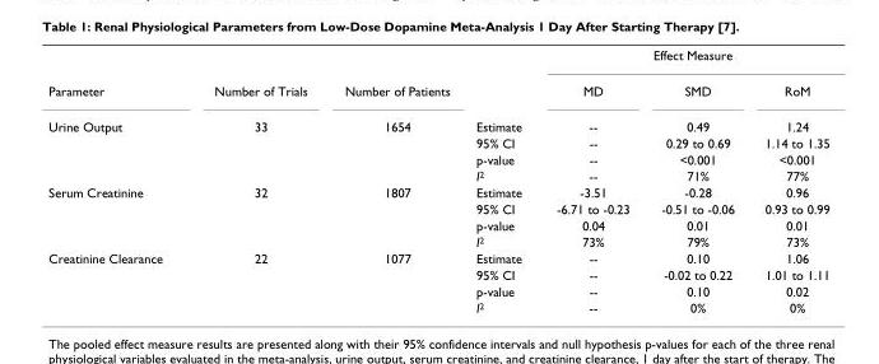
<table><thead><tr><td rowspan="2">Parameter</td><td rowspan="2">Number of Trials</td><td rowspan="2">Number of Patients</td><td rowspan="2"></td><td colspan="3">Effect Measure</td></tr><tr><td>MD</td><td>SMD</td><td>RoM</td></tr></thead><tbody><tr><td rowspan="4">Urine Output</td><td>33</td><td>1654</td><td>Estimate</td><td>--</td><td>0.49</td><td>1.24</td></tr><tr><td></td><td></td><td>95% CI</td><td>--</td><td>0.29 to 0.69</td><td>1.14 to 1.35</td></tr><tr><td></td><td></td><td>p-value</td><td>--</td><td>&lt;0.001</td><td>&lt;0.001</td></tr><tr><td></td><td></td><td>I<sup>2</sup></td><td>--</td><td>71%</td><td>77%</td></tr><tr><td rowspan="4">Serum Creatinine</td><td>32</td><td>1807</td><td>Estimate</td><td>-3.51</td><td>-0.28</td><td>0.96</td></tr><tr><td></td><td></td><td>95% CI</td><td>-6.71 to -0.23</td><td>-0.51 to -0.06</td><td>0.93 to 0.99</td></tr><tr><td></td><td></td><td>p-value</td><td>0.04</td><td>0.01</td><td>0.01</td></tr><tr><td></td><td></td><td>I<sup>2</sup></td><td>73%</td><td>79%</td><td>73%</td></tr><tr><td rowspan="4">Creatinine Clearance</td><td>22</td><td>1077</td><td>Estimate</td><td>--</td><td>0.10</td><td>1.06</td></tr><tr><td></td><td></td><td>95% CI</td><td>--</td><td>-0.02 to 0.22</td><td>1.01 to 1.11</td></tr><tr><td></td><td></td><td>p-value</td><td>--</td><td>0.10</td><td>0.02</td></tr><tr><td></td><td></td><td>I<sup>2</sup></td><td>--</td><td>0%</td><td>0%</td></tr></tbody></table>